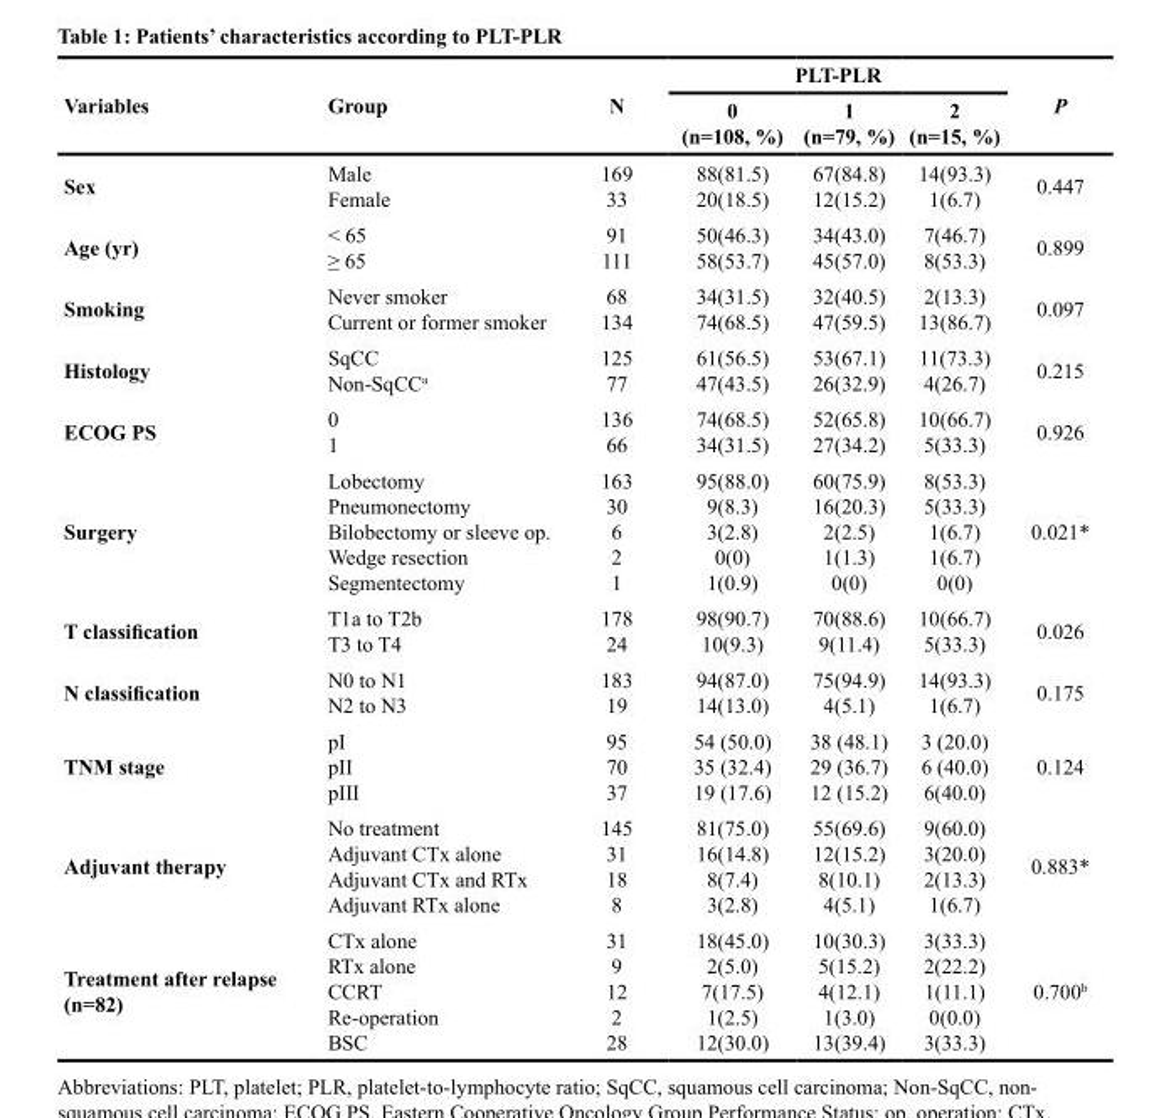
<table><thead><tr><td rowspan="2">Variables</td><td rowspan="2">Group</td><td rowspan="2">N</td><td colspan="3">PLT-PLR</td><td rowspan="2">P</td></tr><tr><td>0 (n=108, %)</td><td>1 (n=79, %)</td><td>2 (n=15, %)</td></tr></thead><tbody><tr><td>Sex</td><td>Male Female</td><td>169 33</td><td>88(81.5) 20(18.5)</td><td>67(84.8) 12(15.2)</td><td>14(93.3) 1(6.7)</td><td>0.447</td></tr><tr><td>Age (yr)</td><td>&lt; 65 ≥ 65</td><td>91 111</td><td>50(46.3) 58(53.7)</td><td>34(43.0) 45(57.0)</td><td>7(46.7) 8(53.3)</td><td>0.899</td></tr><tr><td>Smoking</td><td>Never smoker Current or former smoker</td><td>68 134</td><td>34(31.5) 74(68.5)</td><td>32(40.5) 47(59.5)</td><td>2(13.3) 13(86.7)</td><td>0.097</td></tr><tr><td>Histology</td><td>SqCC Non-SqCC<sup>a</sup></td><td>125 77</td><td>61(56.5) 47(43.5)</td><td>53(67.1) 26(32.9)</td><td>11(73.3) 4(26.7)</td><td>0.215</td></tr><tr><td>ECOG PS</td><td>0 1</td><td>136 66</td><td>74(68.5) 34(31.5)</td><td>52(65.8) 27(34.2)</td><td>10(66.7) 5(33.3)</td><td>0.926</td></tr><tr><td>Surgery</td><td>Lobectomy Pneumonectomy Bilobectomy or sleeve op. Wedge resection Segmentectomy</td><td>163 30 6 2 1</td><td>95(88.0) 9(8.3) 3(2.8) 0(0) 1(0.9)</td><td>60(75.9) 16(20.3) 2(2.5) 1(1.3) 0(0)</td><td>8(53.3) 5(33.3) 1(6.7) 1(6.7) 0(0)</td><td>0.021*</td></tr><tr><td>T classification</td><td>T1a to T2b T3 to T4</td><td>178 24</td><td>98(90.7) 10(9.3)</td><td>70(88.6) 9(11.4)</td><td>10(66.7) 5(33.3)</td><td>0.026</td></tr><tr><td>N classification</td><td>N0 to N1 N2 to N3</td><td>183 19</td><td>94(87.0) 14(13.0)</td><td>75(94.9) 4(5.1)</td><td>14(93.3) 1(6.7)</td><td>0.175</td></tr><tr><td>TNM stage</td><td>pI pII pIII</td><td>95 70 37</td><td>54 (50.0) 35 (32.4) 19 (17.6)</td><td>38 (48.1) 29 (36.7) 12 (15.2)</td><td>3 (20.0) 6 (40.0) 6(40.0)</td><td>0.124</td></tr><tr><td>Adjuvant therapy</td><td>No treatment Adjuvant CTx alone Adjuvant CTx and RTx Adjuvant RTx alone</td><td>145 31 18 8</td><td>81(75.0) 16(14.8) 8(7.4) 3(2.8)</td><td>55(69.6) 12(15.2) 8(10.1) 4(5.1)</td><td>9(60.0) 3(20.0) 2(13.3) 1(6.7)</td><td>0.883*</td></tr><tr><td>Treatment after relapse (n=82)</td><td>CTx alone RTx alone CCRT Re-operation BSC</td><td>31 9 12 2 28</td><td>18(45.0) 2(5.0) 7(17.5) 1(2.5) 12(30.0)</td><td>10(30.3) 5(15.2) 4(12.1) 1(3.0) 13(39.4)</td><td>3(33.3) 2(22.2) 1(11.1) 0(0.0) 3(33.3)</td><td>0.700<sup>b</sup></td></tr></tbody></table>